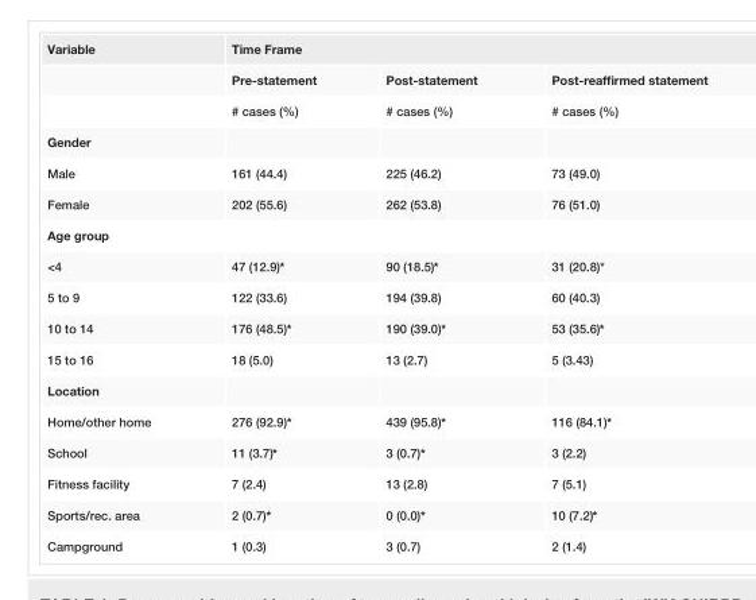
<table><tbody><tr><td rowspan="3">Variable</td><td colspan="3">Time Frame</td></tr><tr><td>Pre-statement</td><td>Post-statement</td><td>Post-reaffirmed statement</td></tr><tr><td># cases (%)</td><td># cases (%)</td><td># cases (%)</td></tr><tr><td colspan="4">Gender</td></tr><tr><td>Male</td><td>161 (44.4)</td><td>225 (46.2)</td><td>73 (49.0)</td></tr><tr><td>Female</td><td>202 (55.6)</td><td>262 (53.8)</td><td>76 (51.0)</td></tr><tr><td colspan="4">Age group</td></tr><tr><td>&lt;4</td><td>47 (12.9)*</td><td>90 (18.5)*</td><td>31 (20.8)*</td></tr><tr><td>5 to 9</td><td>122 (33.6)</td><td>194 (39.8)</td><td>60 (40.3)</td></tr><tr><td>10 to 14</td><td>176 (48.5)*</td><td>190 (39.0)*</td><td>53 (35.6)*</td></tr><tr><td>15 to 16</td><td>18 (5.0)</td><td>13 (2.7)</td><td>5 (3.43)</td></tr><tr><td colspan="4">Location</td></tr><tr><td>Home/other home</td><td>276 (92.9)*</td><td>439 (95.8)*</td><td>116 (84.1)*</td></tr><tr><td>School</td><td>11 (3.7)*</td><td>3 (0.7)*</td><td>3 (2.2)</td></tr><tr><td>Fitness facility</td><td>7 (2.4)</td><td>13 (2.8)</td><td>7 (5.1)</td></tr><tr><td>Sports/rec. area</td><td>2 (0.7)*</td><td>0 (0.0)*</td><td>10 (7.2)*</td></tr><tr><td>Campground</td><td>1 (0.3)</td><td>3 (0.7)</td><td>2 (1.4)</td></tr></tbody></table>